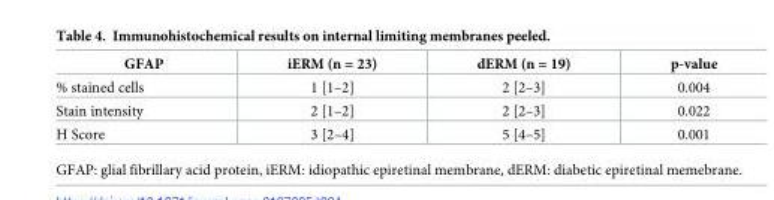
<table><thead><tr><td>GFAP</td><td>iERM (n = 23)</td><td>dERM (n = 19)</td><td>p-value</td></tr></thead><tbody><tr><td>% stained cells</td><td>1 [1–2]</td><td>2 [2–3]</td><td>0.004</td></tr><tr><td>Stain intensity</td><td>2 [1–2]</td><td>2 [2–3]</td><td>0.022</td></tr><tr><td>H Score</td><td>3 [2–4]</td><td>5 [4–5]</td><td>0.001</td></tr></tbody></table>